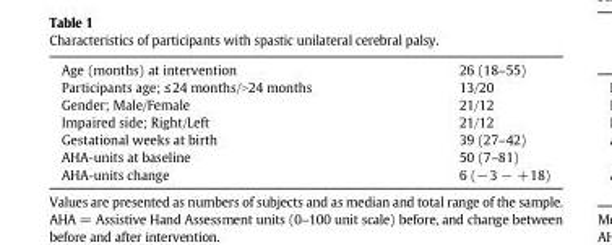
<table><tbody><tr><td>Age (months) at intervention</td><td>26 (18–55)</td></tr><tr><td>Participants age; ≤24 months/&gt;24 months</td><td>13/20</td></tr><tr><td>Gender; Male/Female</td><td>21/12</td></tr><tr><td>Impaired side; Right/Left</td><td>21/12</td></tr><tr><td>Gestational weeks at birth</td><td>39 (27–42)</td></tr><tr><td>AHA-units at baseline</td><td>50 (7–81)</td></tr><tr><td>AHA-units change</td><td>6 (−3 − +18)</td></tr></tbody></table>